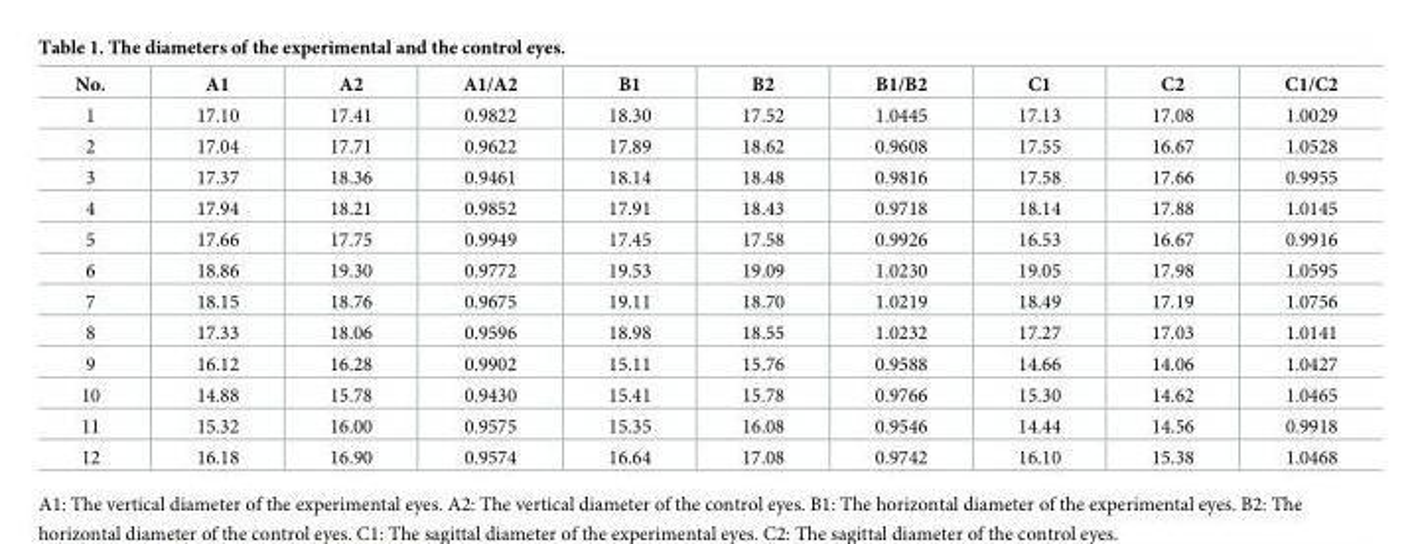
<table><thead><tr><td>No.</td><td>A1</td><td>A2</td><td>A1/A2</td><td>B1</td><td>B2</td><td>B1/B2</td><td>C1</td><td>C2</td><td>C1/C2</td></tr></thead><tbody><tr><td>1</td><td>17.10</td><td>17.41</td><td>0.9822</td><td>18.30</td><td>17.52</td><td>1.0445</td><td>17.13</td><td>17.08</td><td>1.0029</td></tr><tr><td>2</td><td>17.04</td><td>17.71</td><td>0.9622</td><td>17.89</td><td>18.62</td><td>0.9608</td><td>17.55</td><td>16.67</td><td>1.0528</td></tr><tr><td>3</td><td>17.37</td><td>18.36</td><td>0.9461</td><td>18.14</td><td>18.48</td><td>0.9816</td><td>17.58</td><td>17.66</td><td>0.9955</td></tr><tr><td>4</td><td>17.94</td><td>18.21</td><td>0.9852</td><td>17.91</td><td>18.43</td><td>0.9718</td><td>18.14</td><td>17.88</td><td>1.0145</td></tr><tr><td>5</td><td>17.66</td><td>17.75</td><td>0.9949</td><td>17.45</td><td>17.58</td><td>0.9926</td><td>16.53</td><td>16.67</td><td>0.9916</td></tr><tr><td>6</td><td>18.86</td><td>19.30</td><td>0.9772</td><td>19.53</td><td>19.09</td><td>1.0230</td><td>19.05</td><td>17.98</td><td>1.0595</td></tr><tr><td>7</td><td>18.15</td><td>18.76</td><td>0.9675</td><td>19.11</td><td>18.70</td><td>1.0219</td><td>18.49</td><td>17.19</td><td>1.0756</td></tr><tr><td>8</td><td>17.33</td><td>18.06</td><td>0.9596</td><td>18.98</td><td>18.55</td><td>1.0232</td><td>17.27</td><td>17.03</td><td>1.0141</td></tr><tr><td>9</td><td>16.12</td><td>16.28</td><td>0.9902</td><td>15.11</td><td>15.76</td><td>0.9588</td><td>14.66</td><td>14.06</td><td>1.0427</td></tr><tr><td>10</td><td>14.88</td><td>15.78</td><td>0.9430</td><td>15.41</td><td>15.78</td><td>0.9766</td><td>15.30</td><td>14.62</td><td>1.0465</td></tr><tr><td>11</td><td>15.32</td><td>16.00</td><td>0.9575</td><td>15.35</td><td>16.08</td><td>0.9546</td><td>14.44</td><td>14.56</td><td>0.9918</td></tr><tr><td>12</td><td>16.18</td><td>16.90</td><td>0.9574</td><td>16.64</td><td>17.08</td><td>0.9742</td><td>16.10</td><td>15.38</td><td>1.0468</td></tr></tbody></table>